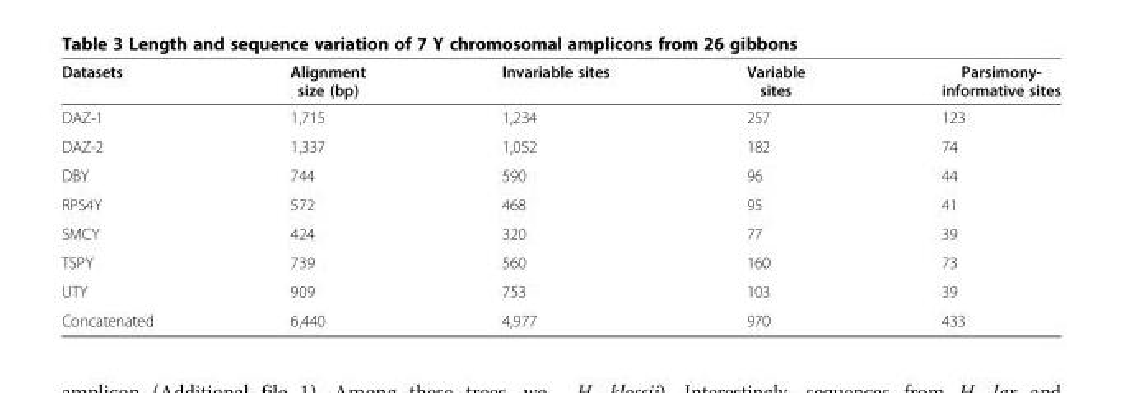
<table><thead><tr><td>Datasets</td><td>Alignment size (bp)</td><td>Invariable sites</td><td>Variable sites</td><td>Parsimony- informative sites</td></tr></thead><tbody><tr><td>DAZ-1</td><td>1,715</td><td>1,234</td><td>257</td><td>123</td></tr><tr><td>DAZ-2</td><td>1,337</td><td>1,052</td><td>182</td><td>74</td></tr><tr><td>DBY</td><td>744</td><td>590</td><td>96</td><td>44</td></tr><tr><td>RPS4Y</td><td>572</td><td>468</td><td>95</td><td>41</td></tr><tr><td>SMCY</td><td>424</td><td>320</td><td>77</td><td>39</td></tr><tr><td>TSPY</td><td>739</td><td>560</td><td>160</td><td>73</td></tr><tr><td>UTY</td><td>909</td><td>753</td><td>103</td><td>39</td></tr><tr><td>Concatenated</td><td>6,440</td><td>4,977</td><td>970</td><td>433</td></tr></tbody></table>